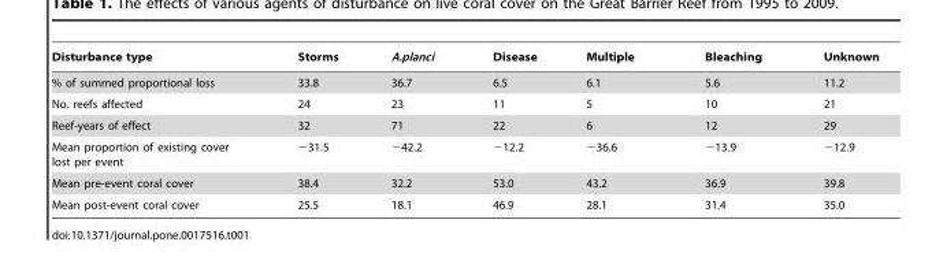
<table><thead><tr><td>Disturbance type</td><td>Storms</td><td>A.planci</td><td>Disease</td><td>Multiple</td><td>Bleaching</td><td>Unknown</td></tr></thead><tbody><tr><td>% of summed proportional loss</td><td>33.8</td><td>36.7</td><td>6.5</td><td>6.1</td><td>5.6</td><td>11.2</td></tr><tr><td>No. reefs affected</td><td>24</td><td>23</td><td>11</td><td>5</td><td>10</td><td>21</td></tr><tr><td>Reef-years of effect</td><td>32</td><td>71</td><td>22</td><td>6</td><td>12</td><td>29</td></tr><tr><td>Mean proportion of existing cover lost per event</td><td>−31.5</td><td>−42.2</td><td>−12.2</td><td>−36.6</td><td>−13.9</td><td>−12.9</td></tr><tr><td>Mean pre-event coral cover</td><td>38.4</td><td>32.2</td><td>53.0</td><td>43.2</td><td>36.9</td><td>39.8</td></tr><tr><td>Mean post-event coral cover</td><td>25.5</td><td>18.1</td><td>46.9</td><td>28.1</td><td>31.4</td><td>35.0</td></tr></tbody></table>